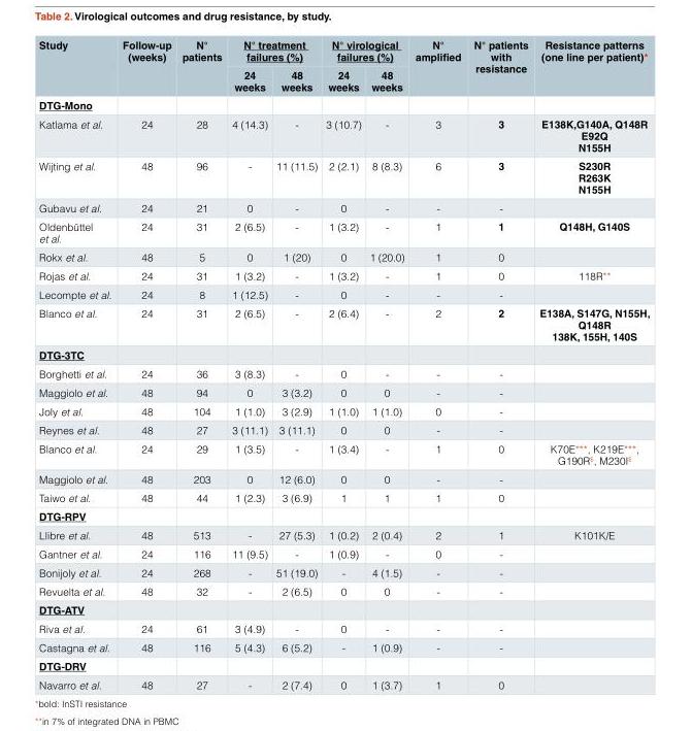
<table><thead><tr><td rowspan="2">Study</td><td rowspan="2">Follow-up (weeks)</td><td rowspan="2">N° patients</td><td colspan="2">N° treatment failures (%)</td><td colspan="2">N° virological failures (%)</td><td rowspan="2">N° amplified</td><td rowspan="2">N° patients with resistance</td><td rowspan="2">Resistance patterns (one line per patient)*</td></tr><tr><td>24 weeks</td><td>48 weeks</td><td>24 weeks</td><td>48 weeks</td></tr></thead><tbody><tr><td colspan="10">DTG-Mono</td></tr><tr><td>Katlama et al.</td><td>24</td><td>28</td><td>4 (14.3)</td><td>-</td><td>3 (10.7)</td><td>-</td><td>3</td><td>3</td><td>E138K,G140A, Q148R E92Q N155H</td></tr><tr><td>Wijting et al.</td><td>48</td><td>96</td><td>-</td><td>11 (11.5)</td><td>2 (2.1)</td><td>8 (8.3)</td><td>6</td><td>3</td><td>S230R R263K N155H</td></tr><tr><td>Gubavu et al.</td><td>24</td><td>21</td><td>0</td><td>-</td><td>0</td><td>-</td><td>-</td><td>-</td><td></td></tr><tr><td>Oldenbüttel et al.</td><td>24</td><td>31</td><td>2 (6.5)</td><td>-</td><td>1 (3.2)</td><td>-</td><td>1</td><td>1</td><td>Q148H, G140S</td></tr><tr><td>Rokx et al.</td><td>48</td><td>5</td><td>0</td><td>1 (20)</td><td>0</td><td>1 (20.0)</td><td>1</td><td>0</td><td></td></tr><tr><td>Rojas et al.</td><td>24</td><td>31</td><td>1 (3.2)</td><td>-</td><td>1 (3.2)</td><td>-</td><td>1</td><td>0</td><td>118R**</td></tr><tr><td>Lecompte et al.</td><td>24</td><td>8</td><td>1 (12.5)</td><td>-</td><td>0</td><td>-</td><td>-</td><td>-</td><td></td></tr><tr><td>Blanco et al.</td><td>24</td><td>31</td><td>2 (6.5)</td><td>-</td><td>2 (6.4)</td><td>-</td><td>2</td><td>2</td><td>E138A, S147G, N155H, Q148R 138K, 155H, 140S</td></tr><tr><td colspan="10">DTG-3TC</td></tr><tr><td>Borghetti et al.</td><td>24</td><td>36</td><td>3 (8.3)</td><td>-</td><td>0</td><td>-</td><td>-</td><td>-</td><td></td></tr><tr><td>Maggiolo et al.</td><td>48</td><td>94</td><td>0</td><td>3 (3.2)</td><td>0</td><td>0</td><td>-</td><td>-</td><td></td></tr><tr><td>Joly et al.</td><td>48</td><td>104</td><td>1 (1.0)</td><td>3 (2.9)</td><td>1 (1.0)</td><td>1 (1.0)</td><td>0</td><td>-</td><td></td></tr><tr><td>Reynes et al.</td><td>48</td><td>27</td><td>3 (11.1)</td><td>3 (11.1)</td><td>0</td><td>0</td><td>-</td><td>-</td><td></td></tr><tr><td>Blanco et al.</td><td>24</td><td>29</td><td>1 (3.5)</td><td>-</td><td>1 (3.4)</td><td>-</td><td>1</td><td>0</td><td>K70E***, K219E***, G190R<sup>$</sup>, M230I<sup>$</sup></td></tr><tr><td>Maggiolo et al.</td><td>48</td><td>203</td><td>0</td><td>12 (6.0)</td><td>0</td><td>0</td><td>-</td><td>-</td><td></td></tr><tr><td>Taiwo et al.</td><td>48</td><td>44</td><td>1 (2.3)</td><td>3 (6.9)</td><td>1</td><td>1</td><td>1</td><td>0</td><td></td></tr><tr><td colspan="10">DTG-RPV</td></tr><tr><td>Llibre et al.</td><td>48</td><td>513</td><td>-</td><td>27 (5.3)</td><td>1 (0.2)</td><td>2 (0.4)</td><td>2</td><td>1</td><td>K101K/E</td></tr><tr><td>Gantner et al.</td><td>24</td><td>116</td><td>11 (9.5)</td><td>-</td><td>1 (0.9)</td><td>-</td><td>0</td><td>-</td><td></td></tr><tr><td>Bonijoly et al.</td><td>24</td><td>268</td><td>-</td><td>51 (19.0)</td><td>-</td><td>4 (1.5)</td><td>-</td><td>-</td><td></td></tr><tr><td>Revuelta et al.</td><td>48</td><td>32</td><td>-</td><td>2 (6.5)</td><td>0</td><td>0</td><td>-</td><td>-</td><td></td></tr><tr><td colspan="10">DTG-ATV</td></tr><tr><td>Riva et al.</td><td>24</td><td>61</td><td>3 (4.9)</td><td>-</td><td>0</td><td>-</td><td>-</td><td>-</td><td></td></tr><tr><td>Castagna et al.</td><td>48</td><td>116</td><td>5 (4.3)</td><td>6 (5.2)</td><td>-</td><td>1 (0.9)</td><td>-</td><td>-</td><td></td></tr><tr><td colspan="10">DTG-DRV</td></tr><tr><td>Navarro et al.</td><td>48</td><td>27</td><td>-</td><td>2 (7.4)</td><td>0</td><td>1 (3.7)</td><td>1</td><td>0</td><td></td></tr></tbody></table>